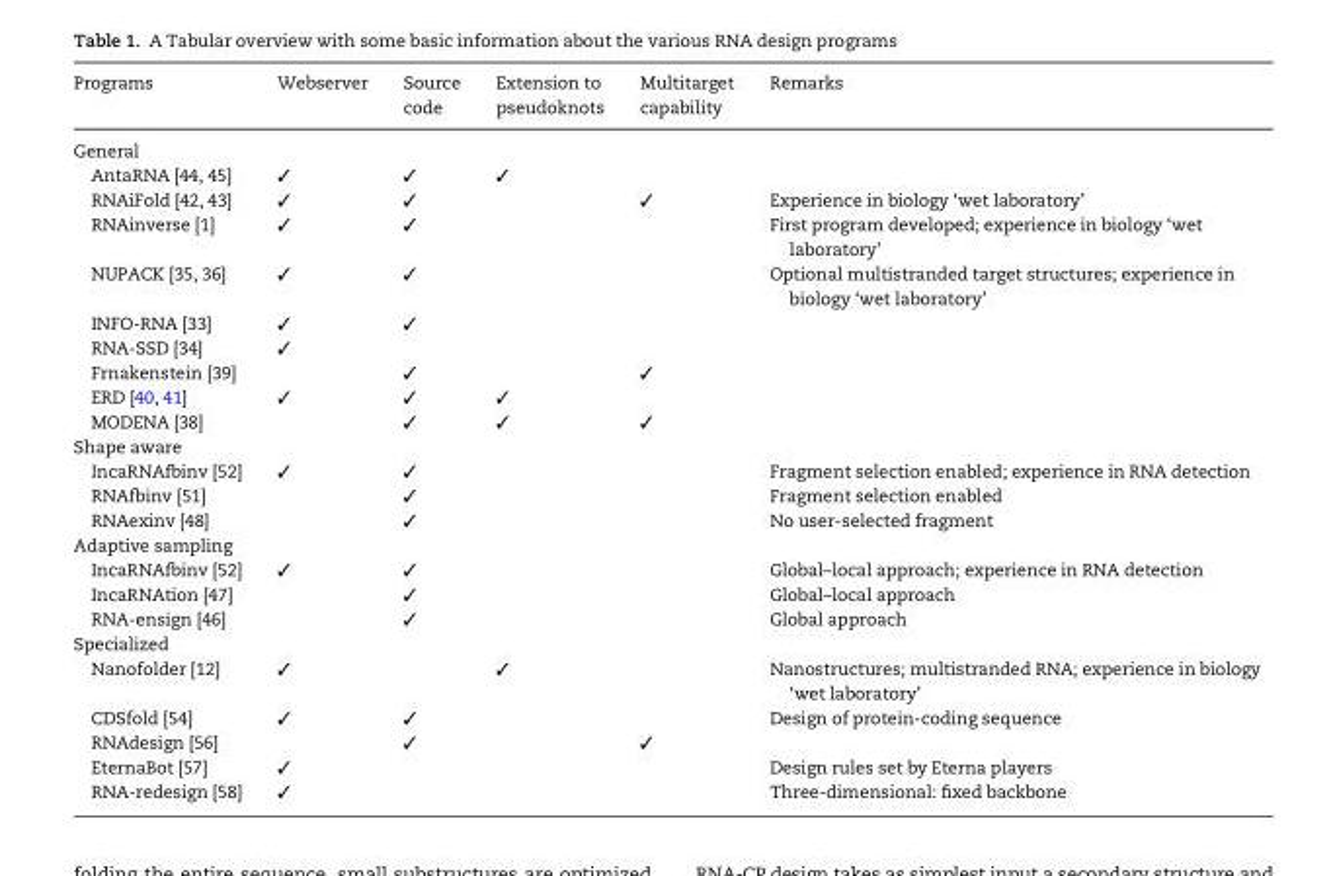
<table><thead><tr><td>Programs</td><td>Webserver</td><td>Source code</td><td>Extension to pseudoknots</td><td>Multitarget capability</td><td>Remarks</td></tr></thead><tbody><tr><td colspan="6">General</td></tr><tr><td>AntaRNA [44, 45]</td><td></td><td></td><td></td><td></td><td></td></tr><tr><td>RNAiFold [42, 43]</td><td></td><td></td><td></td><td></td><td>Experience in biology ‘wet laboratory’</td></tr><tr><td>RNAinverse [1]</td><td></td><td></td><td></td><td></td><td>First program developed; experience in biology ‘wet laboratory’</td></tr><tr><td>NUPACK [35, 36]</td><td></td><td></td><td></td><td></td><td>Optional multistranded target structures; experience in biology ‘wet laboratory’</td></tr><tr><td>INFO-RNA [33]</td><td></td><td></td><td></td><td></td><td></td></tr><tr><td>RNA-SSD [34]</td><td></td><td></td><td></td><td></td><td></td></tr><tr><td>Frnakenstein [39]</td><td></td><td></td><td></td><td></td><td></td></tr><tr><td>ERD [40, 41]</td><td></td><td></td><td></td><td></td><td></td></tr><tr><td>MODENA [38]</td><td></td><td></td><td></td><td></td><td></td></tr><tr><td colspan="6">Shape aware</td></tr><tr><td>IncaRNAfbinv [52]</td><td></td><td></td><td></td><td></td><td>Fragment selection enabled; experience in RNA detection</td></tr><tr><td>RNAfbinv [51]</td><td></td><td></td><td></td><td></td><td>Fragment selection enabled</td></tr><tr><td>RNAexinv [48]</td><td></td><td></td><td></td><td></td><td>No user-selected fragment</td></tr><tr><td colspan="6">Adaptive sampling</td></tr><tr><td>IncaRNAfbinv [52]</td><td></td><td></td><td></td><td></td><td>Global–local approach; experience in RNA detection</td></tr><tr><td>IncaRNAtion [47]</td><td></td><td></td><td></td><td></td><td>Global–local approach</td></tr><tr><td>RNA-ensign [46]</td><td></td><td></td><td></td><td></td><td>Global approach</td></tr><tr><td colspan="6">Specialized</td></tr><tr><td>Nanofolder [12]</td><td></td><td></td><td></td><td></td><td>Nanostructures; multistranded RNA; experience in biology ‘wet laboratory’</td></tr><tr><td>CDSfold [54]</td><td></td><td></td><td></td><td></td><td>Design of protein-coding sequence</td></tr><tr><td>RNAdesign [56]</td><td></td><td></td><td></td><td></td><td></td></tr><tr><td>EternaBot [57]</td><td></td><td></td><td></td><td></td><td>Design rules set by Eterna players</td></tr><tr><td>RNA-redesign [58]</td><td></td><td></td><td></td><td></td><td>Three-dimensional: fixed backbone</td></tr></tbody></table>